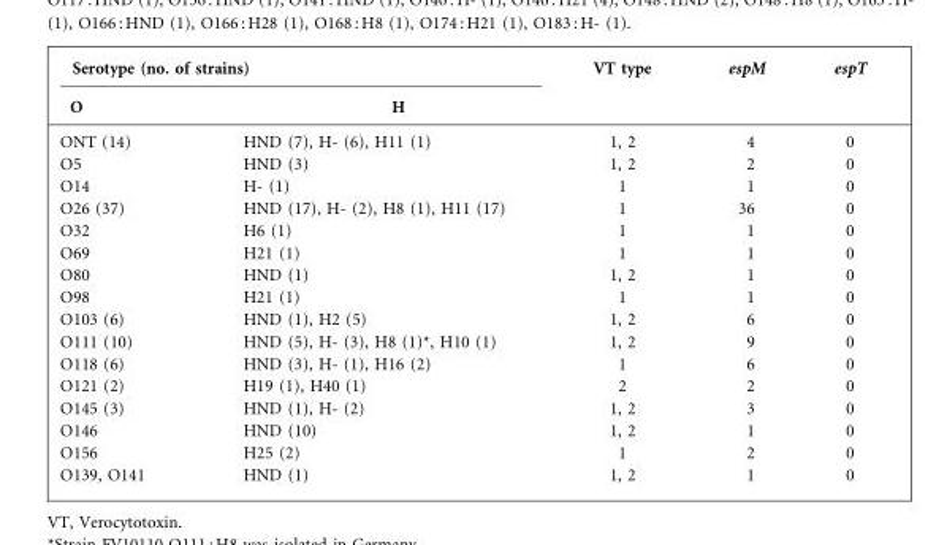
<table><thead><tr><td colspan="2">Serotype (no. of strains)</td><td rowspan="2">VT type</td><td rowspan="2">espM</td><td rowspan="2">espT</td></tr><tr><td>O</td><td>H</td></tr></thead><tbody><tr><td>ONT (14)</td><td>HND (7), H- (6), H11 (1)</td><td>1, 2</td><td>4</td><td>0</td></tr><tr><td>O5</td><td>HND (3)</td><td>1, 2</td><td>2</td><td>0</td></tr><tr><td>O14</td><td>H- (1)</td><td>1</td><td>1</td><td>0</td></tr><tr><td>O26 (37)</td><td>HND (17), H- (2), H8 (1), H11 (17)</td><td>1</td><td>36</td><td>0</td></tr><tr><td>O32</td><td>H6 (1)</td><td>1</td><td>1</td><td>0</td></tr><tr><td>O69</td><td>H21 (1)</td><td>1</td><td>1</td><td>0</td></tr><tr><td>O80</td><td>HND (1)</td><td>1, 2</td><td>1</td><td>0</td></tr><tr><td>O98</td><td>H21 (1)</td><td>1</td><td>1</td><td>0</td></tr><tr><td>O103 (6)</td><td>HND (1), H2 (5)</td><td>1, 2</td><td>6</td><td>0</td></tr><tr><td>O111 (10)</td><td>HND (5), H- (3), H8 (1)*, H10 (1)</td><td>1, 2</td><td>9</td><td>0</td></tr><tr><td>O118 (6)</td><td>HND (3), H- (1), H16 (2)</td><td>1</td><td>6</td><td>0</td></tr><tr><td>O121 (2)</td><td>H19 (1), H40 (1)</td><td>2</td><td>2</td><td>0</td></tr><tr><td>O145 (3)</td><td>HND (1), H- (2)</td><td>1, 2</td><td>3</td><td>0</td></tr><tr><td>O146</td><td>HND (10)</td><td>1, 2</td><td>1</td><td>0</td></tr><tr><td>O156</td><td>H25 (2)</td><td>1</td><td>2</td><td>0</td></tr><tr><td>O139, O141</td><td>HND (1)</td><td>1, 2</td><td>1</td><td>0</td></tr></tbody></table>